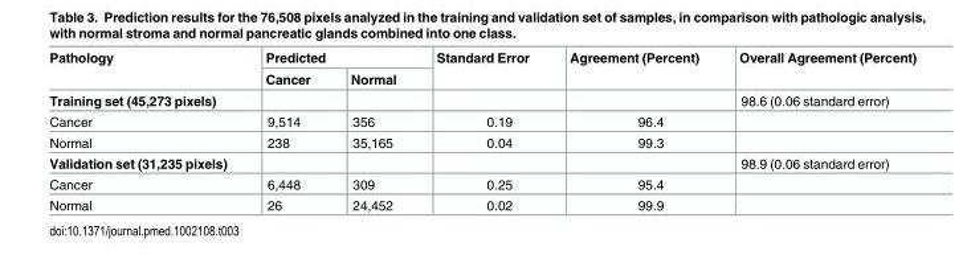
<table><thead><tr><td rowspan="2">Pathology</td><td colspan="2">Predicted</td><td rowspan="2">Standard Error</td><td rowspan="2">Agreement (Percent)</td><td rowspan="2">Overall Agreement (Percent)</td></tr><tr><td>Cancer</td><td>Normal</td></tr></thead><tbody><tr><td>Training set (45,273 pixels)</td><td></td><td></td><td></td><td></td><td>98.6 (0.06 standard error)</td></tr><tr><td>Cancer</td><td>9,514</td><td>356</td><td>0.19</td><td>96.4</td><td></td></tr><tr><td>Normal</td><td>238</td><td>35,165</td><td>0.04</td><td>99.3</td><td></td></tr><tr><td>Validation set (31,235 pixels)</td><td></td><td></td><td></td><td></td><td>98.9 (0.06 standard error)</td></tr><tr><td>Cancer</td><td>6,448</td><td>309</td><td>0.25</td><td>95.4</td><td></td></tr><tr><td>Normal</td><td>26</td><td>24,452</td><td>0.02</td><td>99.9</td><td></td></tr></tbody></table>